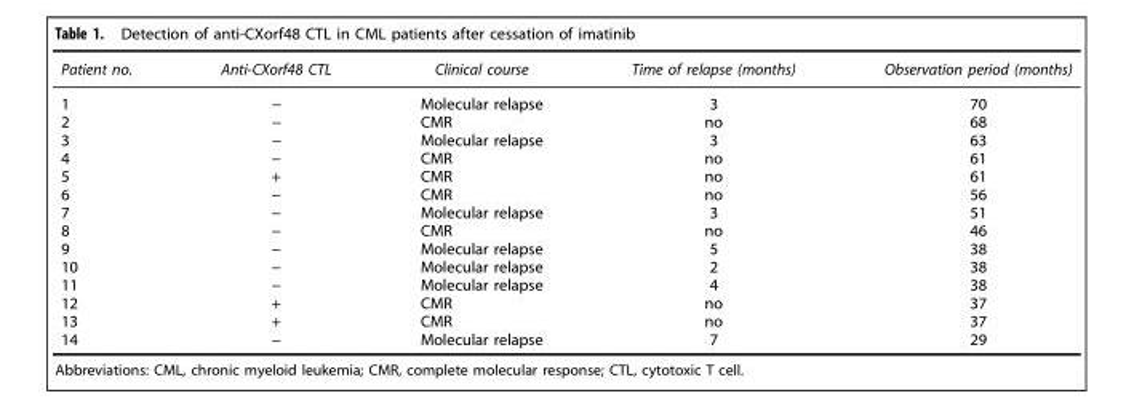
<table><thead><tr><td>Patient no.</td><td>Anti-CXorf48 CTL</td><td>Clinical course</td><td>Time of relapse (months)</td><td>Observation period (months)</td></tr></thead><tbody><tr><td>1</td><td>−</td><td>Molecular relapse</td><td>3</td><td>70</td></tr><tr><td>2</td><td>−</td><td>CMR</td><td>no</td><td>68</td></tr><tr><td>3</td><td>−</td><td>Molecular relapse</td><td>3</td><td>63</td></tr><tr><td>4</td><td>−</td><td>CMR</td><td>no</td><td>61</td></tr><tr><td>5</td><td>+</td><td>CMR</td><td>no</td><td>61</td></tr><tr><td>6</td><td>−</td><td>CMR</td><td>no</td><td>56</td></tr><tr><td>7</td><td>−</td><td>Molecular relapse</td><td>3</td><td>51</td></tr><tr><td>8</td><td>−</td><td>CMR</td><td>no</td><td>46</td></tr><tr><td>9</td><td>−</td><td>Molecular relapse</td><td>5</td><td>38</td></tr><tr><td>10</td><td>−</td><td>Molecular relapse</td><td>2</td><td>38</td></tr><tr><td>11</td><td>−</td><td>Molecular relapse</td><td>4</td><td>38</td></tr><tr><td>12</td><td>+</td><td>CMR</td><td>no</td><td>37</td></tr><tr><td>13</td><td>+</td><td>CMR</td><td>no</td><td>37</td></tr><tr><td>14</td><td>−</td><td>Molecular relapse</td><td>7</td><td>29</td></tr></tbody></table>